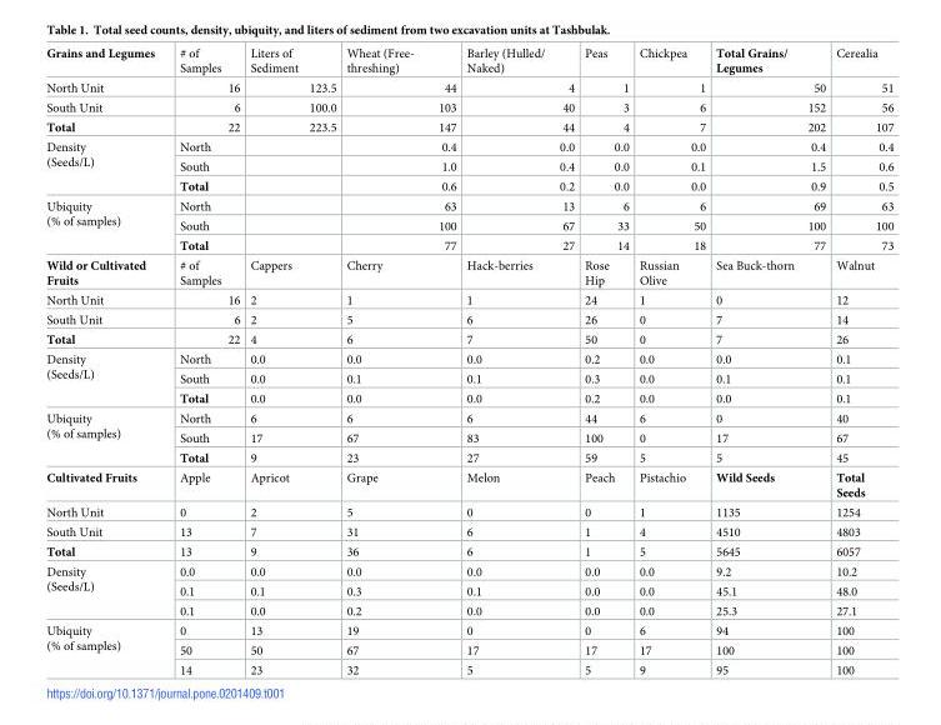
<table><tbody><tr><td>Grains and Legumes</td><td># of Samples</td><td>Liters of Sediment</td><td>Wheat (Free- threshing)</td><td>Barley (Hulled/ Naked)</td><td>Peas</td><td>Chickpea</td><td>Total Grains/ Legumes</td><td>Cerealia</td></tr><tr><td>North Unit</td><td>16</td><td>123.5</td><td>44</td><td>4</td><td>1</td><td>1</td><td>50</td><td>51</td></tr><tr><td>South Unit</td><td>6</td><td>100.0</td><td>103</td><td>40</td><td>3</td><td>6</td><td>152</td><td>56</td></tr><tr><td>Total</td><td>22</td><td>223.5</td><td>147</td><td>44</td><td>4</td><td>7</td><td>202</td><td>107</td></tr><tr><td rowspan="3">Density (Seeds/L)</td><td>North</td><td></td><td>0.4</td><td>0.0</td><td>0.0</td><td>0.0</td><td>0.4</td><td>0.4</td></tr><tr><td>South</td><td></td><td>1.0</td><td>0.4</td><td>0.0</td><td>0.1</td><td>1.5</td><td>0.6</td></tr><tr><td>Total</td><td></td><td>0.6</td><td>0.2</td><td>0.0</td><td>0.0</td><td>0.9</td><td>0.5</td></tr><tr><td rowspan="3">Ubiquity (% of samples)</td><td>North</td><td></td><td>63</td><td>13</td><td>6</td><td>6</td><td>69</td><td>63</td></tr><tr><td>South</td><td></td><td>100</td><td>67</td><td>33</td><td>50</td><td>100</td><td>100</td></tr><tr><td>Total</td><td></td><td>77</td><td>27</td><td>14</td><td>18</td><td>77</td><td>73</td></tr><tr><td>Wild or Cultivated Fruits</td><td># of Samples</td><td>Cappers</td><td>Cherry</td><td>Hack-berries</td><td>Rose Hip</td><td>Russian Olive</td><td>Sea Buck-thorn</td><td>Walnut</td></tr><tr><td>North Unit</td><td>16</td><td>2</td><td>1</td><td>1</td><td>24</td><td>1</td><td>0</td><td>12</td></tr><tr><td>South Unit</td><td>6</td><td>2</td><td>5</td><td>6</td><td>26</td><td>0</td><td>7</td><td>14</td></tr><tr><td>Total</td><td>22</td><td>4</td><td>6</td><td>7</td><td>50</td><td>0</td><td>7</td><td>26</td></tr><tr><td rowspan="3">Density (Seeds/L)</td><td>North</td><td>0.0</td><td>0.0</td><td>0.0</td><td>0.2</td><td>0.0</td><td>0.0</td><td>0.1</td></tr><tr><td>South</td><td>0.0</td><td>0.1</td><td>0.1</td><td>0.3</td><td>0.0</td><td>0.1</td><td>0.1</td></tr><tr><td>Total</td><td>0.0</td><td>0.0</td><td>0.0</td><td>0.2</td><td>0.0</td><td>0.0</td><td>0.1</td></tr><tr><td rowspan="3">Ubiquity (% of samples)</td><td>North</td><td>6</td><td>6</td><td>6</td><td>44</td><td>6</td><td>0</td><td>40</td></tr><tr><td>South</td><td>17</td><td>67</td><td>83</td><td>100</td><td>0</td><td>17</td><td>67</td></tr><tr><td>Total</td><td>9</td><td>23</td><td>27</td><td>59</td><td>5</td><td>5</td><td>45</td></tr><tr><td>Cultivated Fruits</td><td>Apple</td><td>Apricot</td><td>Grape</td><td>Melon</td><td>Peach</td><td>Pistachio</td><td>Wild Seeds</td><td>Total Seeds</td></tr><tr><td>North Unit</td><td>0</td><td>2</td><td>5</td><td>0</td><td>0</td><td>1</td><td>1135</td><td>1254</td></tr><tr><td>South Unit</td><td>13</td><td>7</td><td>31</td><td>6</td><td>1</td><td>4</td><td>4510</td><td>4803</td></tr><tr><td>Total</td><td>13</td><td>9</td><td>36</td><td>6</td><td>1</td><td>5</td><td>5645</td><td>6057</td></tr><tr><td rowspan="3">Density (Seeds/L)</td><td>0.0</td><td>0.0</td><td>0.0</td><td>0.0</td><td>0.0</td><td>0.0</td><td>9.2</td><td>10.2</td></tr><tr><td>0.1</td><td>0.1</td><td>0.3</td><td>0.1</td><td>0.0</td><td>0.0</td><td>45.1</td><td>48.0</td></tr><tr><td>0.1</td><td>0.0</td><td>0.2</td><td>0.0</td><td>0.0</td><td>0.0</td><td>25.3</td><td>27.1</td></tr><tr><td rowspan="3">Ubiquity (% of samples)</td><td>0</td><td>13</td><td>19</td><td>0</td><td>0</td><td>6</td><td>94</td><td>100</td></tr><tr><td>50</td><td>50</td><td>67</td><td>17</td><td>17</td><td>17</td><td>100</td><td>100</td></tr><tr><td>14</td><td>23</td><td>32</td><td>5</td><td>5</td><td>9</td><td>95</td><td>100</td></tr></tbody></table>